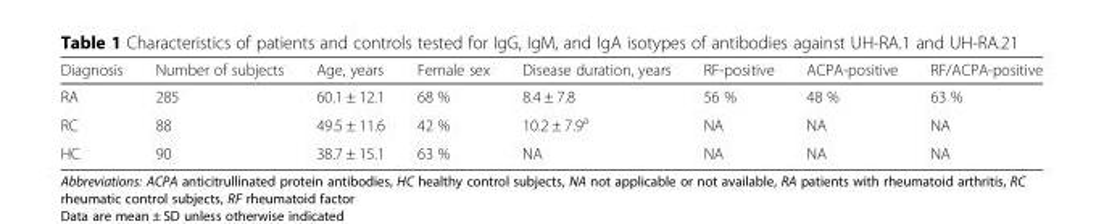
<table><thead><tr><td>Diagnosis</td><td>Number of subjects</td><td>Age, years</td><td>Female sex</td><td>Disease duration, years</td><td>RF-positive</td><td>ACPA-positive</td><td>RF/ACPA-positive</td></tr></thead><tbody><tr><td>RA</td><td>285</td><td>60.1 ± 12.1</td><td>68 %</td><td>8.4 ± 7.8</td><td>56 %</td><td>48 %</td><td>63 %</td></tr><tr><td>RC</td><td>88</td><td>49.5 ± 11.6</td><td>42 %</td><td>10.2 ± 7.9<sup>a</sup></td><td>NA</td><td>NA</td><td>NA</td></tr><tr><td>HC</td><td>90</td><td>38.7 ± 15.1</td><td>63 %</td><td>NA</td><td>NA</td><td>NA</td><td>NA</td></tr></tbody></table>